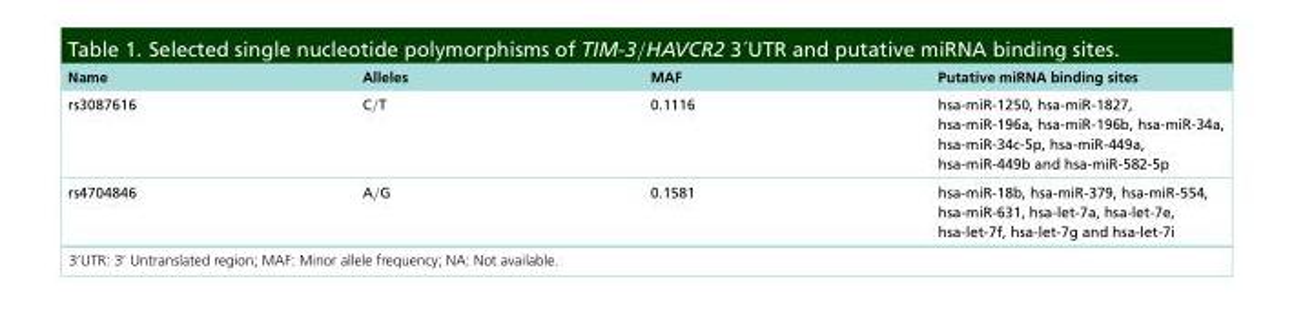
<table><thead><tr><td>Name</td><td>Alleles</td><td>MAF</td><td>Putative miRNA binding sites</td></tr></thead><tbody><tr><td>rs3087616</td><td>C/T</td><td>0.1116</td><td>hsa-miR-1250, hsa-miR-1827, hsa-miR-196a, hsa-miR-196b, hsa-miR-34a, hsa-miR-34c-5p, hsa-miR-449a, hsa-miR-449b and hsa-miR-582-5p</td></tr><tr><td>rs4704846</td><td>A/G</td><td>0.1581</td><td>hsa-miR-18b, hsa-miR-379, hsa-miR-554, hsa-miR-631, hsa-let-7a, hsa-let-7e, hsa-let-7f, hsa-let-7g and hsa-let-7i</td></tr></tbody></table>